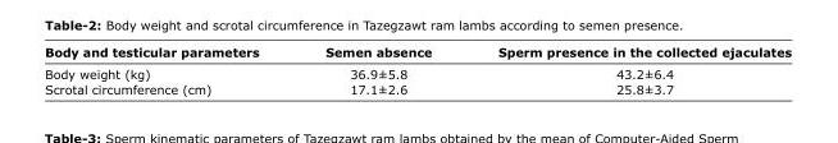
<table><thead><tr><td>Body and testicular parameters</td><td>Semen absence</td><td>Sperm presence in the collected ejaculates</td></tr></thead><tbody><tr><td>Body weight (kg)</td><td>36.9±5.8</td><td>43.2±6.4</td></tr><tr><td>Scrotal circumference (cm)</td><td>17.1±2.6</td><td>25.8±3.7</td></tr></tbody></table>